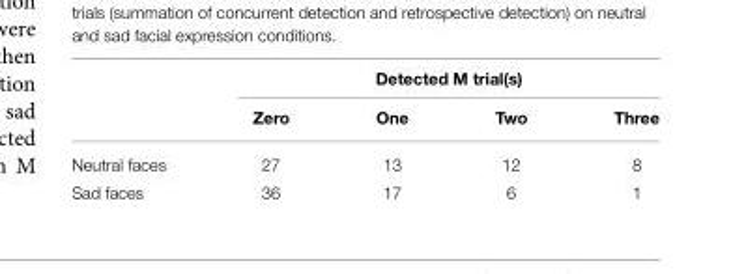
<table><thead><tr><td rowspan="2"></td><td colspan="4">Detected M trial(s)</td></tr><tr><td>Zero</td><td>One</td><td>Two</td><td>Three</td></tr></thead><tbody><tr><td>Neutral faces</td><td>27</td><td>13</td><td>12</td><td>8</td></tr><tr><td>Sad faces</td><td>36</td><td>17</td><td>6</td><td>1</td></tr></tbody></table>